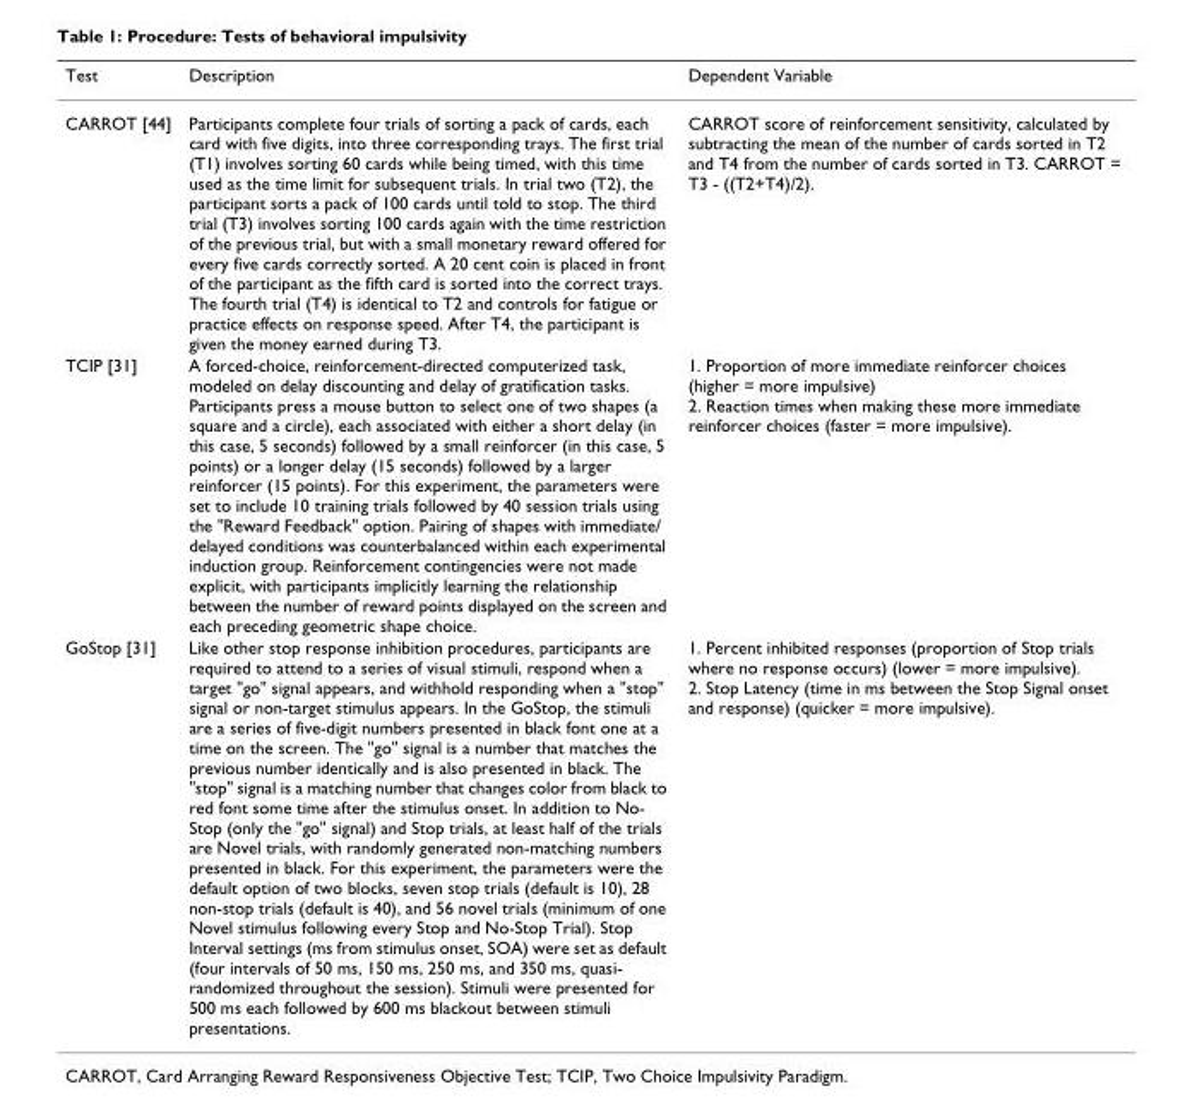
<table><thead><tr><td>Test</td><td>Description</td><td>Dependent Variable</td></tr></thead><tbody><tr><td>CARROT [44]</td><td>Participants complete four trials of sorting a pack of cards, each card with five digits, into three corresponding trays. The first trial (T1) involves sorting 60 cards while being timed, with this time used as the time limit for subsequent trials. In trial two (T2), the participant sorts a pack of 100 cards until told to stop. The third trial (T3) involves sorting 100 cards again with the time restriction of the previous trial, but with a small monetary reward offered for every five cards correctly sorted. A 20 cent coin is placed in front of the participant as the fifth card is sorted into the correct trays. The fourth trial (T4) is identical to T2 and controls for fatigue or practice effects on response speed. After T4, the participant is given the money earned during T3.</td><td>CARROT score of reinforcement sensitivity, calculated by subtracting the mean of the number of cards sorted in T2 and T4 from the number of cards sorted in T3. CARROT = T3 - ((T2+T4)/2).</td></tr><tr><td>TCIP [31]</td><td>A forced-choice, reinforcement-directed computerized task, modeled on delay discounting and delay of gratification tasks. Participants press a mouse button to select one of two shapes (a square and a circle), each associated with either a short delay (in this case, 5 seconds) followed by a small reinforcer (in this case, 5 points) or a longer delay (15 seconds) followed by a larger reinforcer (15 points). For this experiment, the parameters were set to include 10 training trials followed by 40 session trials using the &quot;Reward Feedback&quot; option. Pairing of shapes with immediate/ delayed conditions was counterbalanced within each experimental induction group. Reinforcement contingencies were not made explicit, with participants implicitly learning the relationship between the number of reward points displayed on the screen and each preceding geometric shape choice.</td><td>1. Proportion of more immediate reinforcer choices (higher = more impulsive) 2. Reaction times when making these more immediate reinforcer choices (faster = more impulsive).</td></tr><tr><td>GoStop [31]</td><td>Like other stop response inhibition procedures, participants are required to attend to a series of visual stimuli, respond when a target &quot;go&quot; signal appears, and withhold responding when a &quot;stop&quot; signal or non-target stimulus appears. In the GoStop, the stimuli are a series of five-digit numbers presented in black font one at a time on the screen. The &quot;go&quot; signal is a number that matches the previous number identically and is also presented in black. The &quot;stop&quot; signal is a matching number that changes color from black to red font some time after the stimulus onset. In addition to No- Stop (only the &quot;go&quot; signal) and Stop trials, at least half of the trials are Novel trials, with randomly generated non-matching numbers presented in black. For this experiment, the parameters were the default option of two blocks, seven stop trials (default is 10), 28 non-stop trials (default is 40), and 56 novel trials (minimum of one Novel stimulus following every Stop and No-Stop Trial). Stop Interval settings (ms from stimulus onset, SOA) were set as default (four intervals of 50 ms, 150 ms, 250 ms, and 350 ms, quasi- randomized throughout the session). Stimuli were presented for 500 ms each followed by 600 ms blackout between stimuli presentations.</td><td>1. Percent inhibited responses (proportion of Stop trials where no response occurs) (lower = more impulsive). 2. Stop Latency (time in ms between the Stop Signal onset and response) (quicker = more impulsive).</td></tr></tbody></table>